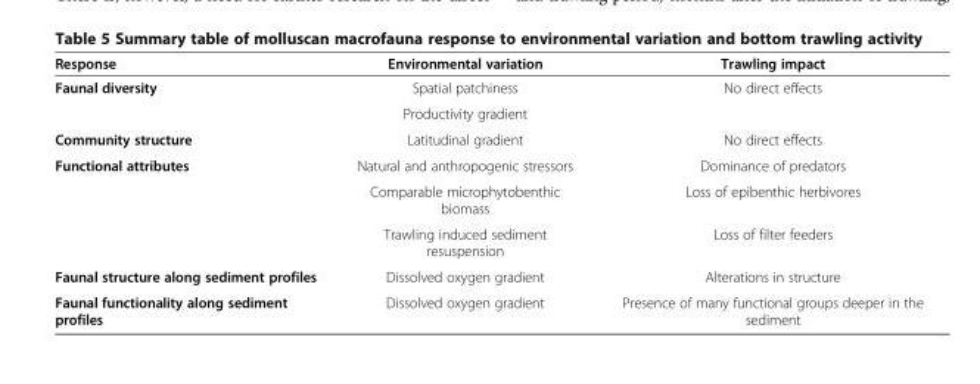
<table><thead><tr><td>Response</td><td>Environmental variation</td><td>Trawling impact</td></tr></thead><tbody><tr><td rowspan="2">Faunal diversity</td><td>Spatial patchiness</td><td rowspan="2">No direct effects</td></tr><tr><td>Productivity gradient</td></tr><tr><td>Community structure</td><td>Latitudinal gradient</td><td>No direct effects</td></tr><tr><td rowspan="3">Functional attributes</td><td>Natural and anthropogenic stressors</td><td>Dominance of predators</td></tr><tr><td>Comparable microphytobenthic biomass</td><td>Loss of epibenthic herbivores</td></tr><tr><td>Trawling induced sediment resuspension</td><td>Loss of filter feeders</td></tr><tr><td>Faunal structure along sediment profiles</td><td>Dissolved oxygen gradient</td><td>Alterations in structure</td></tr><tr><td>Faunal functionality along sediment profiles</td><td>Dissolved oxygen gradient</td><td>Presence of many functional groups deeper in the sediment</td></tr></tbody></table>